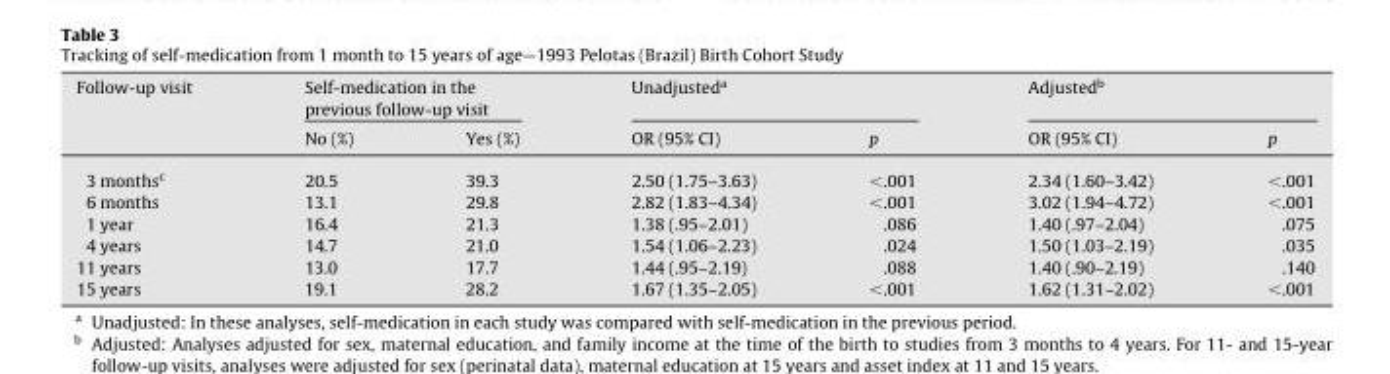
<table><thead><tr><td rowspan="2">Follow-up visit</td><td colspan="2">Self-medication in the previous follow-up visit</td><td colspan="2">Unadjusted<sup>a</sup></td><td colspan="2">Adjusted<sup>b</sup></td></tr><tr><td>No (%)</td><td>Yes (%)</td><td>OR (95% CI)</td><td>p</td><td>OR (95% CI)</td><td>p</td></tr></thead><tbody><tr><td>3 months<sup>c</sup></td><td>20.5</td><td>39.3</td><td>2.50 (1.75–3.63)</td><td>&lt;.001</td><td>2.34 (1.60–3.42)</td><td>&lt;.001</td></tr><tr><td>6 months</td><td>13.1</td><td>29.8</td><td>2.82 (1.83–4.34)</td><td>&lt;.001</td><td>3.02 (1.94–4.72)</td><td>&lt;.001</td></tr><tr><td>1 year</td><td>16.4</td><td>21.3</td><td>1.38 (.95–2.01)</td><td>.086</td><td>1.40 (.97–2.04)</td><td>.075</td></tr><tr><td>4 years</td><td>14.7</td><td>21.0</td><td>1.54 (1.06–2.23)</td><td>.024</td><td>1.50 (1.03–2.19)</td><td>.035</td></tr><tr><td>11 years</td><td>13.0</td><td>17.7</td><td>1.44 (.95–2.19)</td><td>.088</td><td>1.40 (.90–2.19)</td><td>.140</td></tr><tr><td>15 years</td><td>19.1</td><td>28.2</td><td>1.67 (1.35–2.05)</td><td>&lt;.001</td><td>1.62 (1.31–2.02)</td><td>&lt;.001</td></tr></tbody></table>